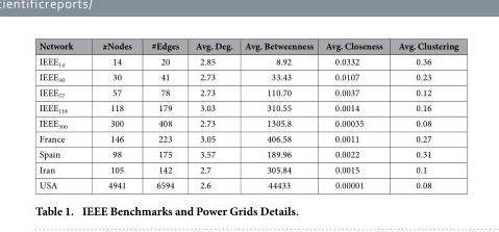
<table><thead><tr><td>Network</td><td>#Nodes</td><td>#Edges</td><td>Avg. Deg.</td><td>Avg. Betweenness</td><td>Avg. Closeness</td><td>Avg. Clustering</td></tr></thead><tbody><tr><td>IEEE<sub>14</sub></td><td>14</td><td>20</td><td>2.85</td><td>8.92</td><td>0.0332</td><td>0.36</td></tr><tr><td>IEEE<sub>30</sub></td><td>30</td><td>41</td><td>2.73</td><td>33.43</td><td>0.0107</td><td>0.23</td></tr><tr><td>IEEE<sub>57</sub></td><td>57</td><td>78</td><td>2.73</td><td>110.70</td><td>0.0037</td><td>0.12</td></tr><tr><td>IEEE<sub>118</sub></td><td>118</td><td>179</td><td>3.03</td><td>310.55</td><td>0.0014</td><td>0.16</td></tr><tr><td>IEEE<sub>300</sub></td><td>300</td><td>408</td><td>2.73</td><td>1305.8</td><td>0.00035</td><td>0.08</td></tr><tr><td>France</td><td>146</td><td>223</td><td>3.05</td><td>406.58</td><td>0.0011</td><td>0.27</td></tr><tr><td>Spain</td><td>98</td><td>175</td><td>3.57</td><td>189.96</td><td>0.0022</td><td>0.31</td></tr><tr><td>Iran</td><td>105</td><td>142</td><td>2.7</td><td>305.84</td><td>0.0015</td><td>0.1</td></tr><tr><td>USA</td><td>4941</td><td>6594</td><td>2.6</td><td>44433</td><td>0.00001</td><td>0.08</td></tr></tbody></table>